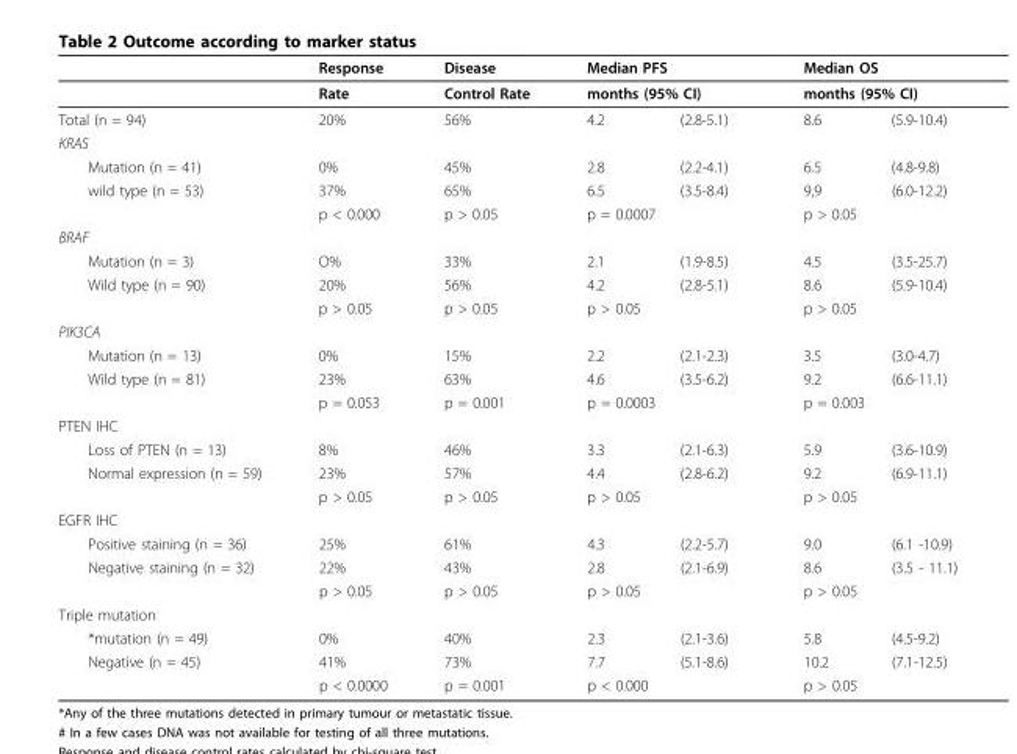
<table><thead><tr><td rowspan="3">Total (n = 94)</td><td rowspan="3">Response Rate 20%</td><td rowspan="3">Disease Control Rate 56%</td><td rowspan="2" colspan="2">Median PFS months (95% CI)</td><td rowspan="2" colspan="2">Median OS months (95% CI)</td></tr><tr></tr><tr><td>4.2</td><td>(2.8-5.1)</td><td>8.6</td><td>(5.9-10.4)</td></tr></thead><tbody><tr><td colspan="7">KRAS</td></tr><tr><td>Mutation (n = 41)</td><td>0%</td><td>45%</td><td>2.8</td><td>(2.2-4.1)</td><td>6.5</td><td>(4.8-9.8)</td></tr><tr><td rowspan="2">wild type (n = 53)</td><td>37%</td><td>65%</td><td>6.5</td><td>(3.5-8.4)</td><td>9,9</td><td>(6.0-12.2)</td></tr><tr><td>p &lt; 0.000</td><td>p &gt; 0.05</td><td colspan="2">p = 0.0007</td><td colspan="2">p &gt; 0.05</td></tr><tr><td colspan="7">BRAF</td></tr><tr><td>Mutation (n = 3)</td><td>O%</td><td>33%</td><td>2.1</td><td>(1.9-8.5)</td><td>4.5</td><td>(3.5-25.7)</td></tr><tr><td rowspan="2">Wild type (n = 90)</td><td>20%</td><td>56%</td><td>4.2</td><td>(2.8-5.1)</td><td>8.6</td><td>(5.9-10.4)</td></tr><tr><td>p &gt; 0.05</td><td>p &gt; 0.05</td><td colspan="2">p &gt; 0.05</td><td colspan="2">p &gt; 0.05</td></tr><tr><td colspan="7">PIK3CA</td></tr><tr><td>Mutation (n = 13)</td><td>0%</td><td>15%</td><td>2.2</td><td>(2.1-2.3)</td><td>3.5</td><td>(3.0-4.7)</td></tr><tr><td rowspan="2">Wild type (n = 81)</td><td>23%</td><td>63%</td><td>4.6</td><td>(3.5-6.2)</td><td>9.2</td><td>(6.6-11.1)</td></tr><tr><td>p = 0.053</td><td>p = 0.001</td><td colspan="2">p = 0.0003</td><td colspan="2">p = 0.003</td></tr><tr><td colspan="7">PTEN IHC</td></tr><tr><td>Loss of PTEN (n = 13)</td><td>8%</td><td>46%</td><td>3.3</td><td>(2.1-6.3)</td><td>5.9</td><td>(3.6-10.9)</td></tr><tr><td rowspan="2">Normal expression (n = 59)</td><td>23%</td><td>57%</td><td>4.4</td><td>(2.8-6.2)</td><td>9.2</td><td>(6.9-11.1)</td></tr><tr><td>p &gt; 0.05</td><td>p &gt; 0.05</td><td colspan="2">p &gt; 0.05</td><td colspan="2">p &gt; 0.05</td></tr><tr><td colspan="7">EGFR IHC</td></tr><tr><td>Positive staining (n = 36)</td><td>25%</td><td>61%</td><td>4.3</td><td>(2.2-5.7)</td><td>9.0</td><td>(6.1 -10.9)</td></tr><tr><td rowspan="2">Negative staining (n = 32)</td><td>22%</td><td>43%</td><td>2.8</td><td>(2.1-6.9)</td><td>8.6</td><td>(3.5 - 11.1)</td></tr><tr><td>p &gt; 0.05</td><td>p &gt; 0.05</td><td colspan="2">p &gt; 0.05</td><td colspan="2">p &gt; 0.05</td></tr><tr><td colspan="7">Triple mutation</td></tr><tr><td>*mutation (n = 49)</td><td>0%</td><td>40%</td><td>2.3</td><td>(2.1-3.6)</td><td>5.8</td><td>(4.5-9.2)</td></tr><tr><td rowspan="2">Negative (n = 45)</td><td>41%</td><td>73%</td><td>7.7</td><td>(5.1-8.6)</td><td>10.2</td><td>(7.1-12.5)</td></tr><tr><td>p &lt; 0.0000</td><td>p = 0.001</td><td colspan="2">p &lt; 0.000</td><td colspan="2">p &gt; 0.05</td></tr></tbody></table>